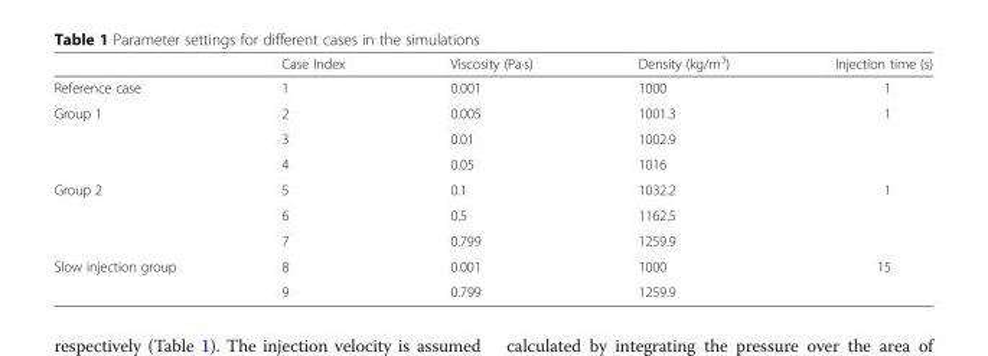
<table><thead><tr><td></td><td>Case Index</td><td>Viscosity (Pa·s)</td><td>Density (kg/m<sup>3</sup>)</td><td>Injection time (s)</td></tr></thead><tbody><tr><td>Reference case</td><td>1</td><td>0.001</td><td>1000</td><td>1</td></tr><tr><td rowspan="3">Group 1</td><td>2</td><td>0.005</td><td>1001.3</td><td rowspan="3">1</td></tr><tr><td>3</td><td>0.01</td><td>1002.9</td></tr><tr><td>4</td><td>0.05</td><td>1016</td></tr><tr><td rowspan="3">Group 2</td><td>5</td><td>0.1</td><td>1032.2</td><td rowspan="3">1</td></tr><tr><td>6</td><td>0.5</td><td>1162.5</td></tr><tr><td>7</td><td>0.799</td><td>1259.9</td></tr><tr><td rowspan="2">Slow injection group</td><td>8</td><td>0.001</td><td>1000</td><td rowspan="2">15</td></tr><tr><td>9</td><td>0.799</td><td>1259.9</td></tr></tbody></table>